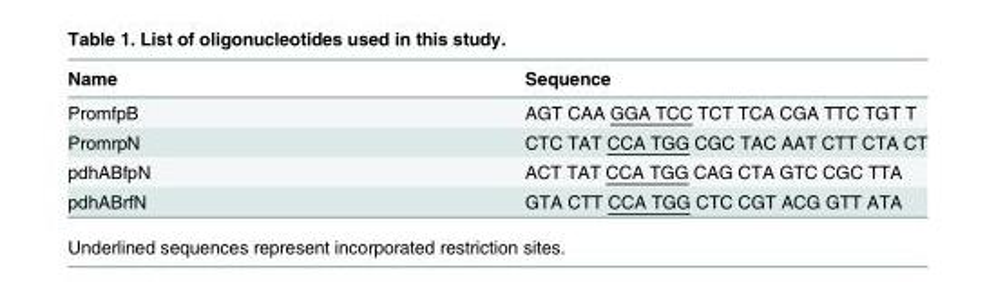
<table><thead><tr><td>Name</td><td>Sequence</td></tr></thead><tbody><tr><td>PromfpB</td><td>AGT CAA GGA TCC TCT TCA CGA TTC TGT T</td></tr><tr><td>PromrpN</td><td>CTC TAT CCA TGG CGC TAC AAT CTT CTA CT</td></tr><tr><td>pdhABfpN</td><td>ACT TAT CCA TGG CAG CTA GTC CGC TTA</td></tr><tr><td>pdhABrfN</td><td>GTA CTT CCA TGG CTC CGT ACG GTT ATA</td></tr></tbody></table>